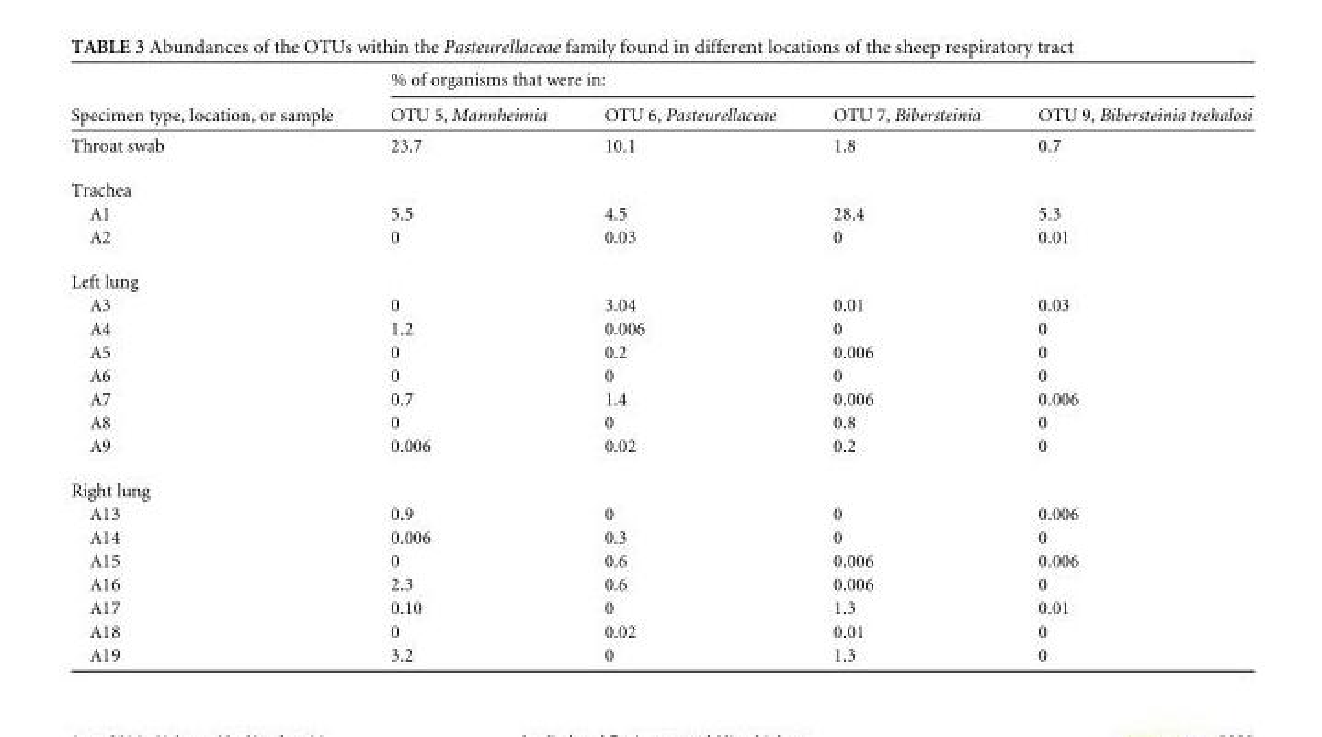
<table><thead><tr><td rowspan="2">Specimen type, location, or sample</td><td colspan="4">% of organisms that were in:</td></tr><tr><td>OTU 5, Mannheimia</td><td>OTU 6, Pasteurellaceae</td><td>OTU 7, Bibersteinia</td><td>OTU 9, Bibersteinia trehalosi</td></tr></thead><tbody><tr><td>Throat swab</td><td>23.7</td><td>10.1</td><td>1.8</td><td>0.7</td></tr><tr><td colspan="5">Trachea</td></tr><tr><td>A1</td><td>5.5</td><td>4.5</td><td>28.4</td><td>5.3</td></tr><tr><td>A2</td><td>0</td><td>0.03</td><td>0</td><td>0.01</td></tr><tr><td colspan="5">Left lung</td></tr><tr><td>A3</td><td>0</td><td>3.04</td><td>0.01</td><td>0.03</td></tr><tr><td>A4</td><td>1.2</td><td>0.006</td><td>0</td><td>0</td></tr><tr><td>A5</td><td>0</td><td>0.2</td><td>0.006</td><td>0</td></tr><tr><td>A6</td><td>0</td><td>0</td><td>0</td><td>0</td></tr><tr><td>A7</td><td>0.7</td><td>1.4</td><td>0.006</td><td>0.006</td></tr><tr><td>A8</td><td>0</td><td>0</td><td>0.8</td><td>0</td></tr><tr><td>A9</td><td>0.006</td><td>0.02</td><td>0.2</td><td>0</td></tr><tr><td colspan="5">Right lung</td></tr><tr><td>A13</td><td>0.9</td><td>0</td><td>0</td><td>0.006</td></tr><tr><td>A14</td><td>0.006</td><td>0.3</td><td>0</td><td>0</td></tr><tr><td>A15</td><td>0</td><td>0.6</td><td>0.006</td><td>0.006</td></tr><tr><td>A16</td><td>2.3</td><td>0.6</td><td>0.006</td><td>0</td></tr><tr><td>A17</td><td>0.10</td><td>0</td><td>1.3</td><td>0.01</td></tr><tr><td>A18</td><td>0</td><td>0.02</td><td>0.01</td><td>0</td></tr><tr><td>A19</td><td>3.2</td><td>0</td><td>1.3</td><td>0</td></tr></tbody></table>